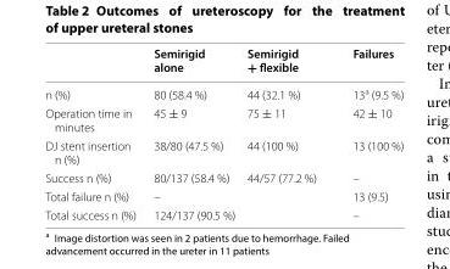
<table><thead><tr><td></td><td>Semirigid alone</td><td>Semirigid + flexible</td><td>Failures</td></tr></thead><tbody><tr><td>n (%)</td><td>80 (58.4 %)</td><td>44 (32.1 %)</td><td>13<sup>a</sup> (9.5 %)</td></tr><tr><td>Operation time in minutes</td><td>45 ± 9</td><td>75 ± 11</td><td>42 ± 10</td></tr><tr><td>DJ stent insertion n (%)</td><td>38/80 (47.5 %)</td><td>44 (100 %)</td><td>13 (100 %)</td></tr><tr><td>Success n (%)</td><td>80/137 (58.4 %)</td><td>44/57 (77.2 %)</td><td>–</td></tr><tr><td>Total failure n (%)</td><td colspan="2">–</td><td>13 (9.5)</td></tr><tr><td>Total success n (%)</td><td colspan="2">124/137 (90.5 %)</td><td>–</td></tr></tbody></table>